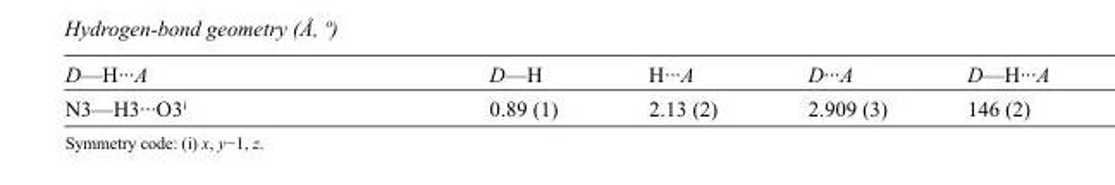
<table><tbody><tr><td>D—H···A</td><td>D—H</td><td>H···A</td><td>D···A</td><td>D—H···A</td></tr><tr><td>N3—H3···O3<sup>i</sup></td><td>0.89 (1)</td><td>2.13 (2)</td><td>2.909 (3)</td><td>146 (2)</td></tr></tbody></table>